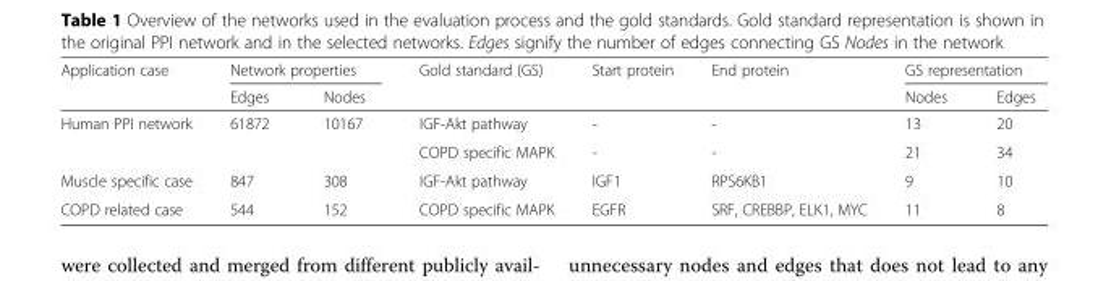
<table><thead><tr><td rowspan="2">Application case</td><td colspan="2">Network properties</td><td rowspan="2">Gold standard (GS)</td><td rowspan="2">Start protein</td><td rowspan="2">End protein</td><td colspan="2">GS representation</td></tr><tr><td>Edges</td><td>Nodes</td><td>Nodes</td><td>Edges</td></tr></thead><tbody><tr><td rowspan="2">Human PPI network</td><td rowspan="2">61872</td><td rowspan="2">10167</td><td>IGF-Akt pathway</td><td>-</td><td>-</td><td>13</td><td>20</td></tr><tr><td>COPD specific MAPK</td><td>-</td><td>-</td><td>21</td><td>34</td></tr><tr><td>Muscle specific case</td><td>847</td><td>308</td><td>IGF-Akt pathway</td><td>IGF1</td><td>RPS6KB1</td><td>9</td><td>10</td></tr><tr><td>COPD related case</td><td>544</td><td>152</td><td>COPD specific MAPK</td><td>EGFR</td><td>SRF, CREBBP, ELK1, MYC</td><td>11</td><td>8</td></tr></tbody></table>